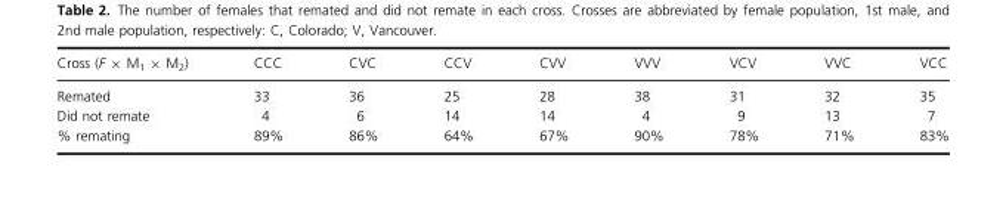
<table><thead><tr><td>Cross (F × M<sub>1</sub> × M<sub>2</sub>)</td><td>CCC</td><td>CVC</td><td>CCV</td><td>CVV</td><td>VVV</td><td>VCV</td><td>VVC</td><td>VCC</td></tr></thead><tbody><tr><td>Remated</td><td>33</td><td>36</td><td>25</td><td>28</td><td>38</td><td>31</td><td>32</td><td>35</td></tr><tr><td>Did not remate</td><td>4</td><td>6</td><td>14</td><td>14</td><td>4</td><td>9</td><td>13</td><td>7</td></tr><tr><td>% remating</td><td>89%</td><td>86%</td><td>64%</td><td>67%</td><td>90%</td><td>78%</td><td>71%</td><td>83%</td></tr></tbody></table>